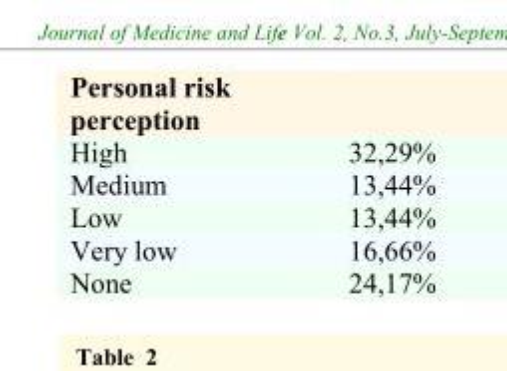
<table><thead><tr><td>Personal risk perception</td><td></td></tr></thead><tbody><tr><td>High</td><td>32,29%</td></tr><tr><td>Medium</td><td>13,44%</td></tr><tr><td>Low</td><td>13,44%</td></tr><tr><td>Very low</td><td>16,66%</td></tr><tr><td>None</td><td>24,17%</td></tr></tbody></table>